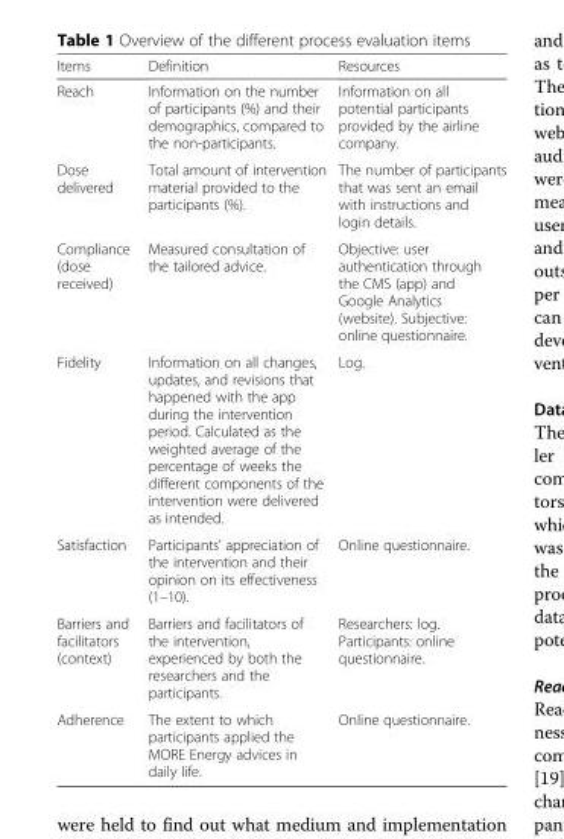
<table><thead><tr><td>Items</td><td>Definition</td><td>Resources</td></tr></thead><tbody><tr><td>Reach</td><td>Information on the number of participants (%) and their demographics, compared to the non-participants.</td><td>Information on all potential participants provided by the airline company.</td></tr><tr><td>Dose delivered</td><td>Total amount of intervention material provided to the participants (%).</td><td>The number of participants that was sent an email with instructions and login details.</td></tr><tr><td>Compliance (dose received)</td><td>Measured consultation of the tailored advice.</td><td>Objective: user authentication through the CMS (app) and Google Analytics (website). Subjective: online questionnaire.</td></tr><tr><td>Fidelity</td><td>Information on all changes, updates, and revisions that happened with the app during the intervention period. Calculated as the weighted average of the percentage of weeks the different components of the intervention were delivered as intended.</td><td>Log.</td></tr><tr><td>Satisfaction</td><td>Participants’ appreciation of the intervention and their opinion on its effectiveness (1–10).</td><td>Online questionnaire.</td></tr><tr><td>Barriers and facilitators (context)</td><td>Barriers and facilitators of the intervention, experienced by both the researchers and the participants.</td><td>Researchers: log. Participants: online questionnaire.</td></tr><tr><td>Adherence</td><td>The extent to which participants applied the MORE Energy advices in daily life.</td><td>Online questionnaire.</td></tr></tbody></table>